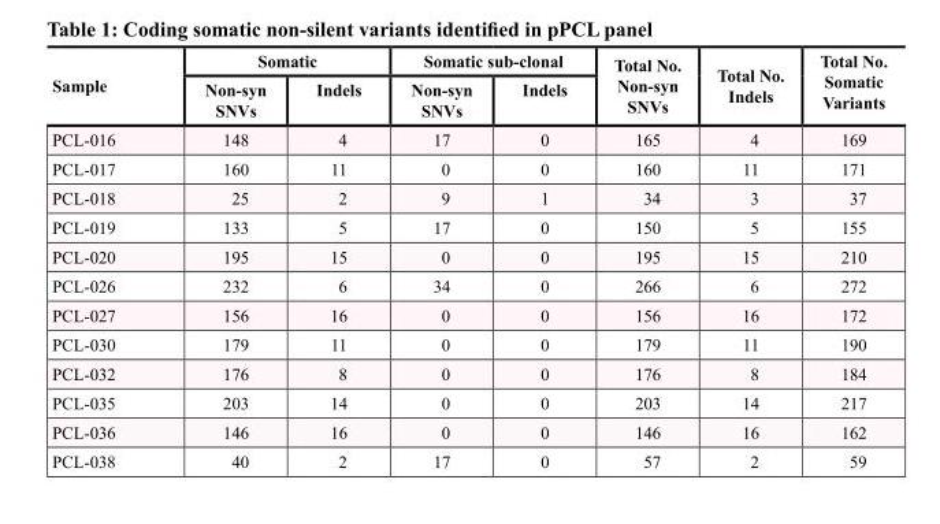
<table><thead><tr><td rowspan="2">Sample</td><td colspan="2">Somatic</td><td colspan="2">Somatic sub-clonal</td><td rowspan="2">Total No. Non-syn SNVs</td><td rowspan="2">Total No. Indels</td><td rowspan="2">Total No. Somatic Variants</td></tr><tr><td>Non-syn SNVs</td><td>Indels</td><td>Non-syn SNVs</td><td>Indels</td></tr></thead><tbody><tr><td>PCL-016</td><td>148</td><td>4</td><td>17</td><td>0</td><td>165</td><td>4</td><td>169</td></tr><tr><td>PCL-017</td><td>160</td><td>11</td><td>0</td><td>0</td><td>160</td><td>11</td><td>171</td></tr><tr><td>PCL-018</td><td>25</td><td>2</td><td>9</td><td>1</td><td>34</td><td>3</td><td>37</td></tr><tr><td>PCL-019</td><td>133</td><td>5</td><td>17</td><td>0</td><td>150</td><td>5</td><td>155</td></tr><tr><td>PCL-020</td><td>195</td><td>15</td><td>0</td><td>0</td><td>195</td><td>15</td><td>210</td></tr><tr><td>PCL-026</td><td>232</td><td>6</td><td>34</td><td>0</td><td>266</td><td>6</td><td>272</td></tr><tr><td>PCL-027</td><td>156</td><td>16</td><td>0</td><td>0</td><td>156</td><td>16</td><td>172</td></tr><tr><td>PCL-030</td><td>179</td><td>11</td><td>0</td><td>0</td><td>179</td><td>11</td><td>190</td></tr><tr><td>PCL-032</td><td>176</td><td>8</td><td>0</td><td>0</td><td>176</td><td>8</td><td>184</td></tr><tr><td>PCL-035</td><td>203</td><td>14</td><td>0</td><td>0</td><td>203</td><td>14</td><td>217</td></tr><tr><td>PCL-036</td><td>146</td><td>16</td><td>0</td><td>0</td><td>146</td><td>16</td><td>162</td></tr><tr><td>PCL-038</td><td>40</td><td>2</td><td>17</td><td>0</td><td>57</td><td>2</td><td>59</td></tr></tbody></table>